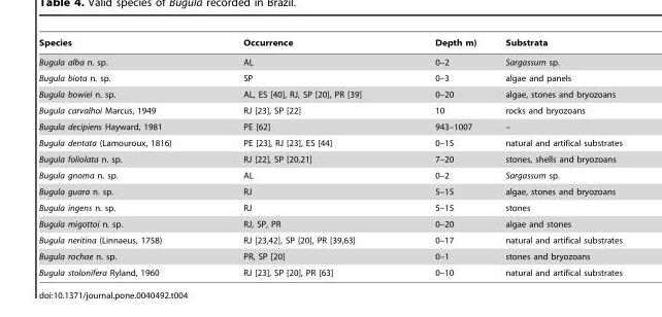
<table><thead><tr><td>Species</td><td>Occurrence</td><td>Depth m)</td><td>Substrata</td></tr></thead><tbody><tr><td>Bugula alba n. sp.</td><td>AL</td><td>0–2</td><td>Sargassum sp.</td></tr><tr><td>Bugula biota n. sp.</td><td>SP</td><td>0–3</td><td>algae and panels</td></tr><tr><td>Bugula bowiei n. sp.</td><td>AL, ES [40], RJ, SP [20], PR [39]</td><td>0–20</td><td>algae, stones and bryozoans</td></tr><tr><td>Bugula carvalhoi Marcus, 1949</td><td>RJ [23], SP [22]</td><td>10</td><td>rocks and bryozoans</td></tr><tr><td>Bugula decipiens Hayward, 1981</td><td>PE [62]</td><td>943–1007</td><td>–</td></tr><tr><td>Bugula dentata (Lamouroux, 1816)</td><td>PE [23], RJ [23], ES [44]</td><td>0–15</td><td>natural and artifical substrates</td></tr><tr><td>Bugula foliolata n. sp.</td><td>RJ [22], SP [20,21]</td><td>7–20</td><td>stones, shells and bryozoans</td></tr><tr><td>Bugula gnoma n. sp.</td><td>AL</td><td>0–2</td><td>Sargassum sp.</td></tr><tr><td>Bugula guara n. sp.</td><td>RJ</td><td>5–15</td><td>algae, stones and bryozoans</td></tr><tr><td>Bugula ingens n. sp.</td><td>RJ</td><td>5–15</td><td>stones</td></tr><tr><td>Bugula migottoi n. sp.</td><td>RJ, SP, PR</td><td>0–20</td><td>algae and stones</td></tr><tr><td>Bugula neritina (Linnaeus, 1758)</td><td>RJ [23,42], SP [20], PR [39,63]</td><td>0–17</td><td>natural and artifical substrates</td></tr><tr><td>Bugula rochae n. sp.</td><td>PR, SP [20]</td><td>0–1</td><td>stones and bryozoans</td></tr><tr><td>Bugula stolonifera Ryland, 1960</td><td>RJ [23], SP [20], PR [63]</td><td>0–10</td><td>natural and artifical substrates</td></tr></tbody></table>